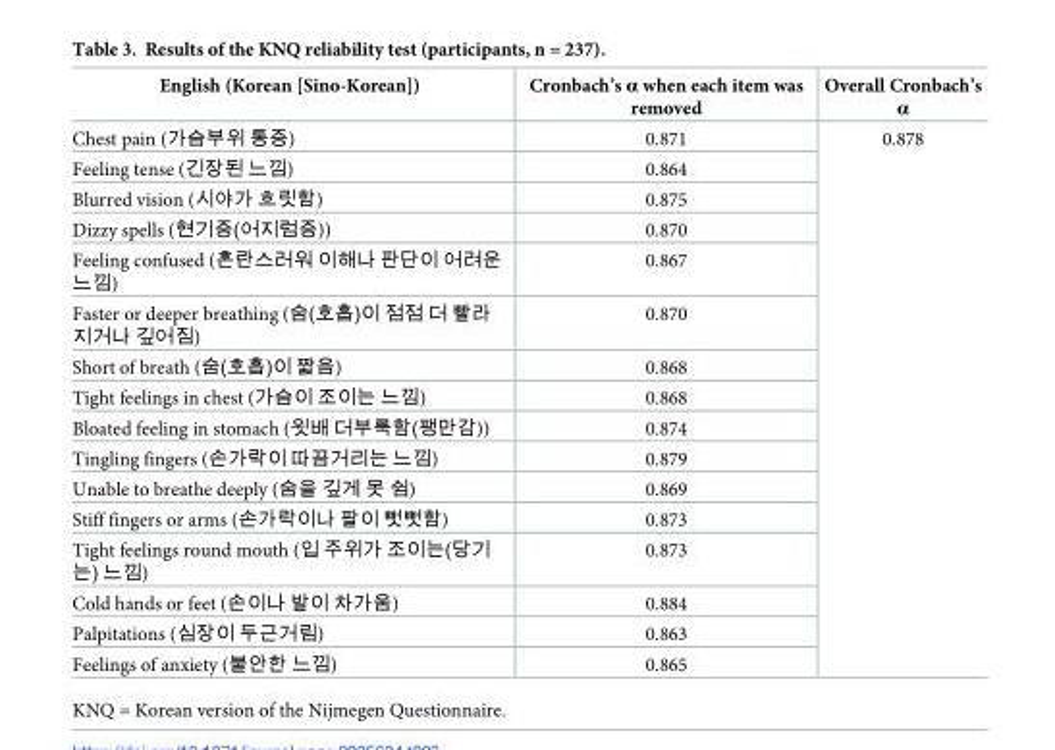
<table><thead><tr><td>English (Korean [Sino-Korean])</td><td>Cronbach’s α when each item was removed</td><td>Overall Cronbach’s α</td></tr></thead><tbody><tr><td>Chest pain (가슴부위 통증)</td><td>0.871</td><td rowspan="16">0.878</td></tr><tr><td>Feeling tense (긴장된 느낌)</td><td>0.864</td></tr><tr><td>Blurred vision (시야가 흐릿함)</td><td>0.875</td></tr><tr><td>Dizzy spells (현기증(어지럼증))</td><td>0.870</td></tr><tr><td>Feeling confused (혼란스러워 이해나 판단이 어려운 느낌)</td><td>0.867</td></tr><tr><td>Faster or deeper breathing (숨(호흡)이 점점 더 빨라 지거나 깊어짐)</td><td>0.870</td></tr><tr><td>Short of breath (숨(호흡)이 짧음)</td><td>0.868</td></tr><tr><td>Tight feelings in chest (가슴이 조이는 느낌)</td><td>0.868</td></tr><tr><td>Bloated feeling in stomach (윗배 더부룩함(팽만감))</td><td>0.874</td></tr><tr><td>Tingling fingers (손가락이 따끔거리는 느낌)</td><td>0.879</td></tr><tr><td>Unable to breathe deeply (숨을 깊게 못 쉼)</td><td>0.869</td></tr><tr><td>Stiff fingers or arms (손가락이나 팔이 뻣뻣함)</td><td>0.873</td></tr><tr><td>Tight feelings round mouth (입 주위가 조이는(당기 는) 느낌)</td><td>0.873</td></tr><tr><td>Cold hands or feet (손이나 발이 차가움)</td><td>0.884</td></tr><tr><td>Palpitations (심장이 두근거림)</td><td>0.863</td></tr><tr><td>Feelings of anxiety (불안한 느낌)</td><td>0.865</td></tr></tbody></table>